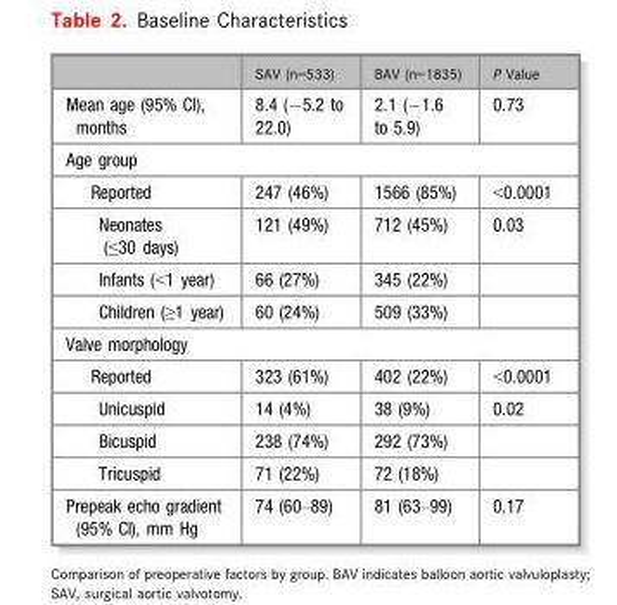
<table><thead><tr><td></td><td>SAV (n=533)</td><td>BAV (n=1835)</td><td>P Value</td></tr></thead><tbody><tr><td>Mean age (95% CI), months</td><td>8.4 (−5.2 to 22.0)</td><td>2.1 (−1.6 to 5.9)</td><td>0.73</td></tr><tr><td colspan="4">Age group</td></tr><tr><td>Reported</td><td>247 (46%)</td><td>1566 (85%)</td><td>&lt;0.0001</td></tr><tr><td>Neonates (≤30 days)</td><td>121 (49%)</td><td>712 (45%)</td><td>0.03</td></tr><tr><td>Infants (&lt;1 year)</td><td>66 (27%)</td><td>345 (22%)</td><td></td></tr><tr><td>Children (≥1 year)</td><td>60 (24%)</td><td>509 (33%)</td><td></td></tr><tr><td colspan="4">Valve morphology</td></tr><tr><td>Reported</td><td>323 (61%)</td><td>402 (22%)</td><td>&lt;0.0001</td></tr><tr><td>Unicuspid</td><td>14 (4%)</td><td>38 (9%)</td><td>0.02</td></tr><tr><td>Bicuspid</td><td>238 (74%)</td><td>292 (73%)</td><td></td></tr><tr><td>Tricuspid</td><td>71 (22%)</td><td>72 (18%)</td><td></td></tr><tr><td>Prepeak echo gradient (95% CI), mm Hg</td><td>74 (60–89)</td><td>81 (63–99)</td><td>0.17</td></tr></tbody></table>